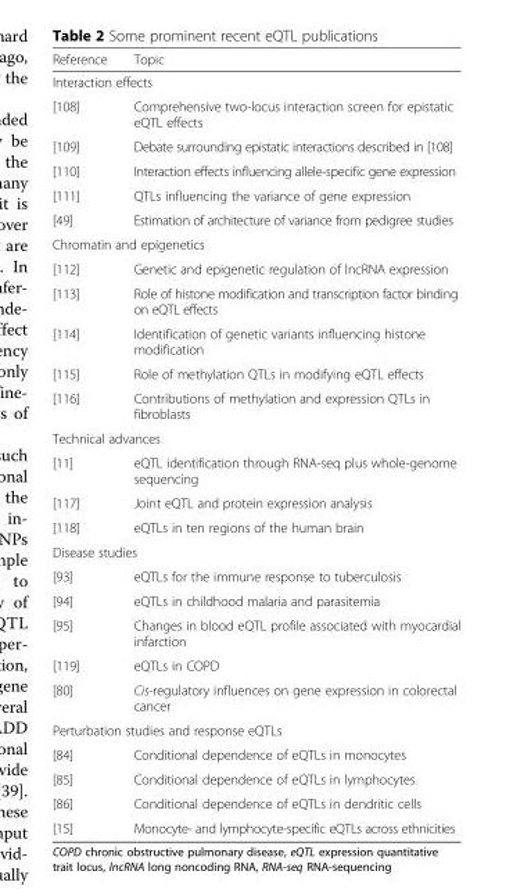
<table><thead><tr><td>Reference</td><td>Topic</td></tr></thead><tbody><tr><td colspan="2">Interaction effects</td></tr><tr><td>[108]</td><td>Comprehensive two-locus interaction screen for epistatic eQTL effects</td></tr><tr><td>[109]</td><td>Debate surrounding epistatic interactions described in [108]</td></tr><tr><td>[110]</td><td>Interaction effects influencing allele-specific gene expression</td></tr><tr><td>[111]</td><td>QTLs influencing the variance of gene expression</td></tr><tr><td>[49]</td><td>Estimation of architecture of variance from pedigree studies</td></tr><tr><td colspan="2">Chromatin and epigenetics</td></tr><tr><td>[112]</td><td>Genetic and epigenetic regulation of lncRNA expression</td></tr><tr><td>[113]</td><td>Role of histone modification and transcription factor binding on eQTL effects</td></tr><tr><td>[114]</td><td>Identification of genetic variants influencing histone modification</td></tr><tr><td>[115]</td><td>Role of methylation QTLs in modifying eQTL effects</td></tr><tr><td>[116]</td><td>Contributions of methylation and expression QTLs in fibroblasts</td></tr><tr><td colspan="2">Technical advances</td></tr><tr><td>[11]</td><td>eQTL identification through RNA-seq plus whole-genome sequencing</td></tr><tr><td>[117]</td><td>Joint eQTL and protein expression analysis</td></tr><tr><td>[118]</td><td>eQTLs in ten regions of the human brain</td></tr><tr><td colspan="2">Disease studies</td></tr><tr><td>[93]</td><td>eQTLs for the immune response to tuberculosis</td></tr><tr><td>[94]</td><td>eQTLs in childhood malaria and parasitemia</td></tr><tr><td>[95]</td><td>Changes in blood eQTL profile associated with myocardial infarction</td></tr><tr><td>[119]</td><td>eQTLs in COPD</td></tr><tr><td>[80]</td><td>Cis-regulatory influences on gene expression in colorectal cancer</td></tr><tr><td colspan="2">Perturbation studies and response eQTLs</td></tr><tr><td>[84]</td><td>Conditional dependence of eQTLs in monocytes</td></tr><tr><td>[85]</td><td>Conditional dependence of eQTLs in lymphocytes</td></tr><tr><td>[86]</td><td>Conditional dependence of eQTLs in dendritic cells</td></tr><tr><td>[15]</td><td>Monocyte- and lymphocyte-specific eQTLs across ethnicities</td></tr></tbody></table>